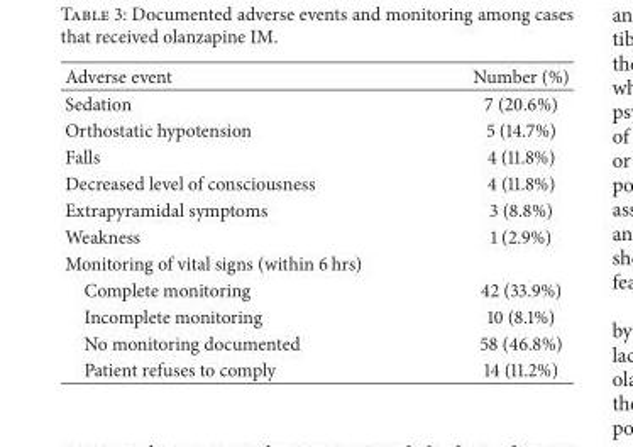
<table><thead><tr><td>Adverse event</td><td>Number (%)</td></tr></thead><tbody><tr><td>Sedation</td><td>7 (20.6%)</td></tr><tr><td>Orthostatic hypotension</td><td>5 (14.7%)</td></tr><tr><td>Falls</td><td>4 (11.8%)</td></tr><tr><td>Decreased level of consciousness</td><td>4 (11.8%)</td></tr><tr><td>Extrapyramidal symptoms</td><td>3 (8.8%)</td></tr><tr><td>Weakness</td><td>1 (2.9%)</td></tr><tr><td colspan="2">Monitoring of vital signs (within 6 hrs)</td></tr><tr><td>Complete monitoring</td><td>42 (33.9%)</td></tr><tr><td>Incomplete monitoring</td><td>10 (8.1%)</td></tr><tr><td>No monitoring documented</td><td>58 (46.8%)</td></tr><tr><td>Patient refuses to comply</td><td>14 (11.2%)</td></tr></tbody></table>